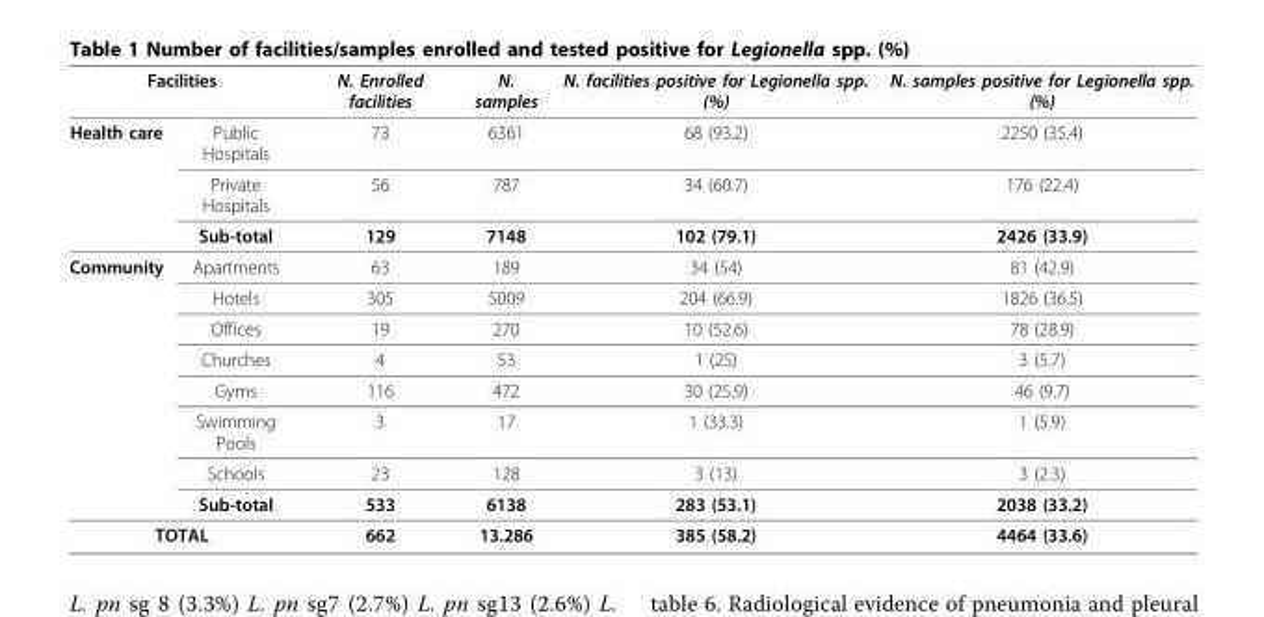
<table><thead><tr><td colspan="2">Facilities</td><td rowspan="2">N. Enrolled facilities 73</td><td rowspan="2">N. samples 6361</td><td rowspan="2">N. facilities positive for Legionella spp. (%) 68 (93.2)</td><td rowspan="2">N. samples positive for Legionella spp. (%) 2250 (35.4)</td></tr><tr><td>Health care</td><td>Public Hospitals</td></tr></thead><tbody><tr><td></td><td>Private Hospitals</td><td>56</td><td>787</td><td>34 (60.7)</td><td>176 (22.4)</td></tr><tr><td></td><td>Sub-total</td><td>129</td><td>7148</td><td>102 (79.1)</td><td>2426 (33.9)</td></tr><tr><td rowspan="8">Community</td><td>Apartments</td><td>63</td><td>189</td><td>34 (54)</td><td>81 (42.9)</td></tr><tr><td>Hotels</td><td>305</td><td>5009</td><td>204 (66.9)</td><td>1826 (36.5)</td></tr><tr><td>Offices</td><td>19</td><td>270</td><td>10 (52.6)</td><td>78 (28.9)</td></tr><tr><td>Churches</td><td>4</td><td>53</td><td>1 (25)</td><td>3 (5.7)</td></tr><tr><td>Gyms</td><td>116</td><td>472</td><td>30 (25.9)</td><td>46 (9.7)</td></tr><tr><td>Swimming Pools</td><td>3</td><td>17</td><td>1 (33.3)</td><td>1 (5.9)</td></tr><tr><td>Schools</td><td>23</td><td>128</td><td>3 (13)</td><td>3 (2.3)</td></tr><tr><td>Sub-total</td><td>533</td><td>6138</td><td>283 (53.1)</td><td>2038 (33.2)</td></tr><tr><td colspan="2">TOTAL</td><td>662</td><td>13.286</td><td>385 (58.2)</td><td>4464 (33.6)</td></tr></tbody></table>